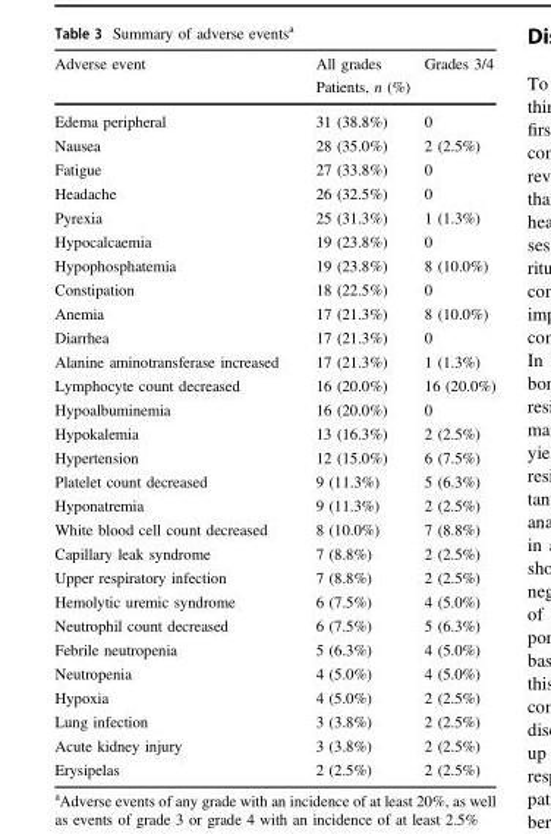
<table><thead><tr><td rowspan="2">Adverse event</td><td>All grades</td><td>Grades 3/4</td></tr><tr><td colspan="2">Patients, n (%)</td></tr></thead><tbody><tr><td>Edema peripheral</td><td>31 (38.8%)</td><td>0</td></tr><tr><td>Nausea</td><td>28 (35.0%)</td><td>2 (2.5%)</td></tr><tr><td>Fatigue</td><td>27 (33.8%)</td><td>0</td></tr><tr><td>Headache</td><td>26 (32.5%)</td><td>0</td></tr><tr><td>Pyrexia</td><td>25 (31.3%)</td><td>1 (1.3%)</td></tr><tr><td>Hypocalcaemia</td><td>19 (23.8%)</td><td>0</td></tr><tr><td>Hypophosphatemia</td><td>19 (23.8%)</td><td>8 (10.0%)</td></tr><tr><td>Constipation</td><td>18 (22.5%)</td><td>0</td></tr><tr><td>Anemia</td><td>17 (21.3%)</td><td>8 (10.0%)</td></tr><tr><td>Diarrhea</td><td>17 (21.3%)</td><td>0</td></tr><tr><td>Alanine aminotransferase increased</td><td>17 (21.3%)</td><td>1 (1.3%)</td></tr><tr><td>Lymphocyte count decreased</td><td>16 (20.0%)</td><td>16 (20.0%)</td></tr><tr><td>Hypoalbuminemia</td><td>16 (20.0%)</td><td>0</td></tr><tr><td>Hypokalemia</td><td>13 (16.3%)</td><td>2 (2.5%)</td></tr><tr><td>Hypertension</td><td>12 (15.0%)</td><td>6 (7.5%)</td></tr><tr><td>Platelet count decreased</td><td>9 (11.3%)</td><td>5 (6.3%)</td></tr><tr><td>Hyponatremia</td><td>9 (11.3%)</td><td>2 (2.5%)</td></tr><tr><td>White blood cell count decreased</td><td>8 (10.0%)</td><td>7 (8.8%)</td></tr><tr><td>Capillary leak syndrome</td><td>7 (8.8%)</td><td>2 (2.5%)</td></tr><tr><td>Upper respiratory infection</td><td>7 (8.8%)</td><td>2 (2.5%)</td></tr><tr><td>Hemolytic uremic syndrome</td><td>6 (7.5%)</td><td>4 (5.0%)</td></tr><tr><td>Neutrophil count decreased</td><td>6 (7.5%)</td><td>5 (6.3%)</td></tr><tr><td>Febrile neutropenia</td><td>5 (6.3%)</td><td>4 (5.0%)</td></tr><tr><td>Neutropenia</td><td>4 (5.0%)</td><td>4 (5.0%)</td></tr><tr><td>Hypoxia</td><td>4 (5.0%)</td><td>2 (2.5%)</td></tr><tr><td>Lung infection</td><td>3 (3.8%)</td><td>2 (2.5%)</td></tr><tr><td>Acute kidney injury</td><td>3 (3.8%)</td><td>2 (2.5%)</td></tr><tr><td>Erysipelas</td><td>2 (2.5%)</td><td>2 (2.5%)</td></tr></tbody></table>